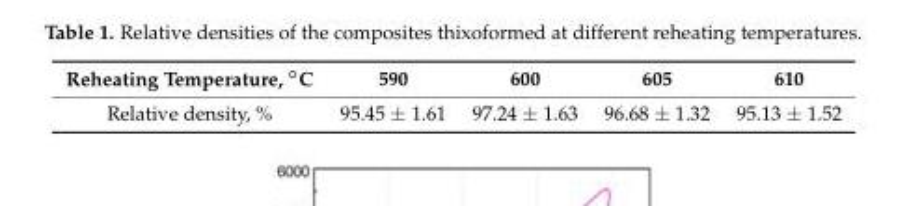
<table><thead><tr><td>Reheating Temperature, ◦C</td><td>590</td><td>600</td><td>605</td><td>610</td></tr></thead><tbody><tr><td>Relative density, %</td><td>95.45 ± 1.61</td><td>97.24 ± 1.63</td><td>96.68 ± 1.32</td><td>95.13 ± 1.52</td></tr></tbody></table>